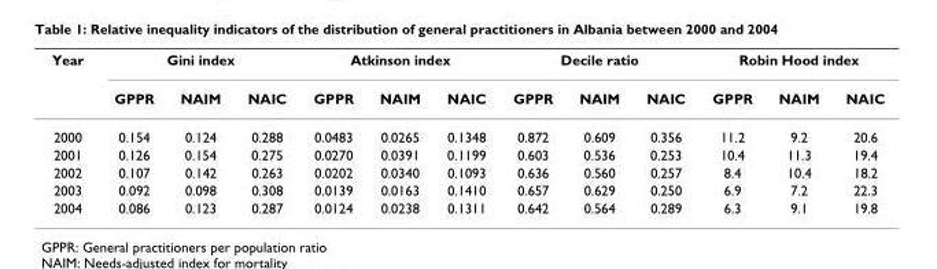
<table><thead><tr><td rowspan="2">Year</td><td colspan="3">Gini index</td><td colspan="3">Atkinson index</td><td colspan="3">Decile ratio</td><td colspan="3">Robin Hood index</td></tr><tr><td>GPPR</td><td>NAIM</td><td>NAIC</td><td>GPPR</td><td>NAIM</td><td>NAIC</td><td>GPPR</td><td>NAIM</td><td>NAIC</td><td>GPPR</td><td>NAIM</td><td>NAIC</td></tr></thead><tbody><tr><td>2000</td><td>0.154</td><td>0.124</td><td>0.288</td><td>0.0483</td><td>0.0265</td><td>0.1348</td><td>0.872</td><td>0.609</td><td>0.356</td><td>11.2</td><td>9.2</td><td>20.6</td></tr><tr><td>2001</td><td>0.126</td><td>0.154</td><td>0.275</td><td>0.0270</td><td>0.0391</td><td>0.1199</td><td>0.603</td><td>0.536</td><td>0.253</td><td>10.4</td><td>11.3</td><td>19.4</td></tr><tr><td>2002</td><td>0.107</td><td>0.142</td><td>0.263</td><td>0.0202</td><td>0.0340</td><td>0.1093</td><td>0.636</td><td>0.560</td><td>0.257</td><td>8.4</td><td>10.4</td><td>18.2</td></tr><tr><td>2003</td><td>0.092</td><td>0.098</td><td>0.308</td><td>0.0139</td><td>0.0163</td><td>0.1410</td><td>0.657</td><td>0.629</td><td>0.250</td><td>6.9</td><td>7.2</td><td>22.3</td></tr><tr><td>2004</td><td>0.086</td><td>0.123</td><td>0.287</td><td>0.0124</td><td>0.0238</td><td>0.1311</td><td>0.642</td><td>0.564</td><td>0.289</td><td>6.3</td><td>9.1</td><td>19.8</td></tr></tbody></table>